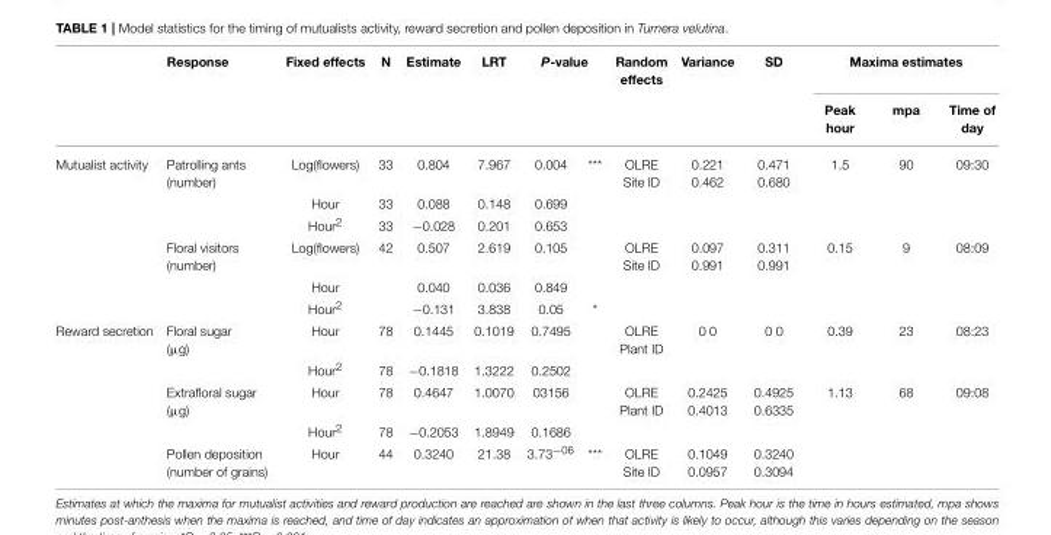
<table><thead><tr><td rowspan="2"></td><td rowspan="2">Response</td><td rowspan="2">Fixed effects</td><td rowspan="2">N</td><td rowspan="2">Estimate</td><td rowspan="2">LRT</td><td colspan="2">P-value</td><td rowspan="2">Random effects</td><td rowspan="2">Variance</td><td rowspan="2">SD</td><td colspan="3">Maxima estimates</td></tr><tr><td></td><td></td><td>Peak hour</td><td>mpa</td><td>Time of day</td></tr></thead><tbody><tr><td rowspan="6">Mutualist activity</td><td>Patrolling ants (number)</td><td>Log(flowers)</td><td>33</td><td>0.804</td><td>7.967</td><td>0.004</td><td>***</td><td>OLRE Site ID</td><td>0.221 0.462</td><td>0.471 0.680</td><td>1.5</td><td>90</td><td>09:30</td></tr><tr><td></td><td>Hour</td><td>33</td><td>0.088</td><td>0.148</td><td>0.699</td><td></td><td></td><td></td><td></td><td></td><td></td><td></td></tr><tr><td></td><td>Hour<sup>2</sup></td><td>33</td><td>−0.028</td><td>0.201</td><td>0.653</td><td></td><td></td><td></td><td></td><td></td><td></td><td></td></tr><tr><td>Floral visitors (number)</td><td>Log(flowers)</td><td>42</td><td>0.507</td><td>2.619</td><td>0.105</td><td></td><td>OLRE Site ID</td><td>0.097 0.991</td><td>0.311 0.991</td><td>0.15</td><td>9</td><td>08:09</td></tr><tr><td></td><td>Hour</td><td></td><td>0.040</td><td>0.036</td><td>0.849</td><td></td><td></td><td></td><td></td><td></td><td></td><td></td></tr><tr><td></td><td>Hour<sup>2</sup></td><td></td><td>−0.131</td><td>3.838</td><td>0.05</td><td>*</td><td></td><td></td><td></td><td></td><td></td><td></td></tr><tr><td rowspan="5">Reward secretion</td><td>Floral sugar (µg)</td><td>Hour</td><td>78</td><td>0.1445</td><td>0.1019</td><td>0.7495</td><td></td><td>OLRE Plant ID</td><td>0 0</td><td>0 0</td><td>0.39</td><td>23</td><td>08:23</td></tr><tr><td></td><td>Hour<sup>2</sup></td><td>78</td><td>−0.1818</td><td>1.3222</td><td>0.2502</td><td></td><td></td><td></td><td></td><td></td><td></td><td></td></tr><tr><td>Extrafloral sugar (µg)</td><td>Hour</td><td>78</td><td>0.4647</td><td>1.0070</td><td>03156</td><td></td><td>OLRE Plant ID</td><td>0.2425 0.4013</td><td>0.4925 0.6335</td><td>1.13</td><td>68</td><td>09:08</td></tr><tr><td></td><td>Hour<sup>2</sup></td><td>78</td><td>−0.2053</td><td>1.8949</td><td>0.1686</td><td></td><td></td><td></td><td></td><td></td><td></td><td></td></tr><tr><td>Pollen deposition (number of grains)</td><td>Hour</td><td>44</td><td>0.3240</td><td>21.38</td><td>3.73<sup>−06</sup></td><td>***</td><td>OLRE Site ID</td><td>0.1049 0.0957</td><td>0.3240 0.3094</td><td></td><td></td><td></td></tr></tbody></table>